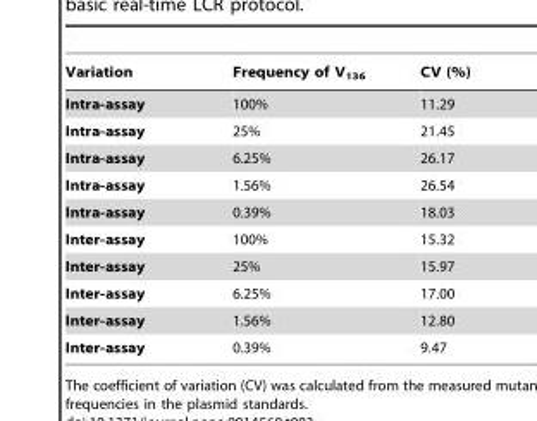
<table><thead><tr><td>Variation</td><td>Frequency of V<sub>136</sub></td><td>CV (%)</td></tr></thead><tbody><tr><td>Intra-assay</td><td>100%</td><td>11.29</td></tr><tr><td>Intra-assay</td><td>25%</td><td>21.45</td></tr><tr><td>Intra-assay</td><td>6.25%</td><td>26.17</td></tr><tr><td>Intra-assay</td><td>1.56%</td><td>26.54</td></tr><tr><td>Intra-assay</td><td>0.39%</td><td>18.03</td></tr><tr><td>Inter-assay</td><td>100%</td><td>15.32</td></tr><tr><td>Inter-assay</td><td>25%</td><td>15.97</td></tr><tr><td>Inter-assay</td><td>6.25%</td><td>17.00</td></tr><tr><td>Inter-assay</td><td>1.56%</td><td>12.80</td></tr><tr><td>Inter-assay</td><td>0.39%</td><td>9.47</td></tr></tbody></table>